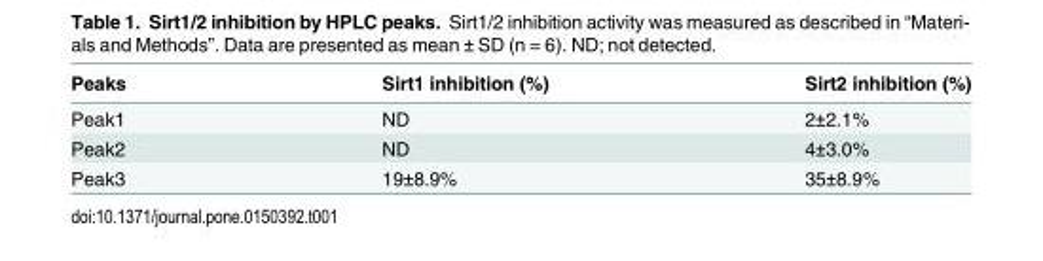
<table><thead><tr><td>Peaks</td><td>Sirt1 inhibition (%)</td><td>Sirt2 inhibition (%)</td></tr></thead><tbody><tr><td>Peak1</td><td>ND</td><td>2±2.1%</td></tr><tr><td>Peak2</td><td>ND</td><td>4±3.0%</td></tr><tr><td>Peak3</td><td>19±8.9%</td><td>35±8.9%</td></tr></tbody></table>